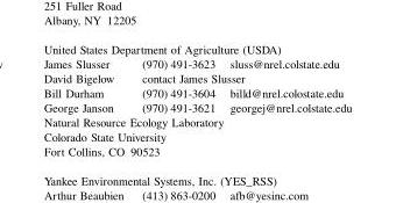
<table><tbody><tr><td colspan="3">United States Department of Agriculture (USDA)</td></tr><tr><td>James Slusser</td><td>(970) 491-3623</td><td>sluss@nrel.colstate.edu</td></tr><tr><td>David Bigelow</td><td colspan="2">contact James Slusser</td></tr><tr><td>Bill Durham</td><td>(970) 491-3604</td><td>billd@nrel.colostate.edu</td></tr><tr><td>George Janson</td><td>(970) 491-3621</td><td>georgej@nrel.colstate.edu</td></tr><tr><td colspan="3">Natural Resource Ecology Laboratory</td></tr><tr><td colspan="3">Colorado State University</td></tr><tr><td colspan="2">Fort Collins, CO 90523</td><td></td></tr></tbody></table>